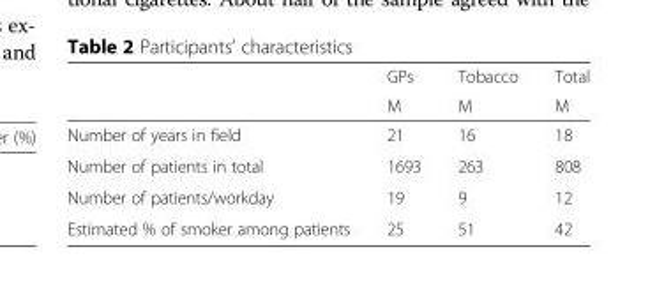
<table><thead><tr><td rowspan="2"></td><td rowspan="2">GPs M</td><td rowspan="2">Tobacco M</td><td rowspan="2">Total M</td></tr><tr></tr></thead><tbody><tr><td>Number of years in field</td><td>21</td><td>16</td><td>18</td></tr><tr><td>Number of patients in total</td><td>1693</td><td>263</td><td>808</td></tr><tr><td>Number of patients/workday</td><td>19</td><td>9</td><td>12</td></tr><tr><td>Estimated % of smoker among patients</td><td>25</td><td>51</td><td>42</td></tr></tbody></table>